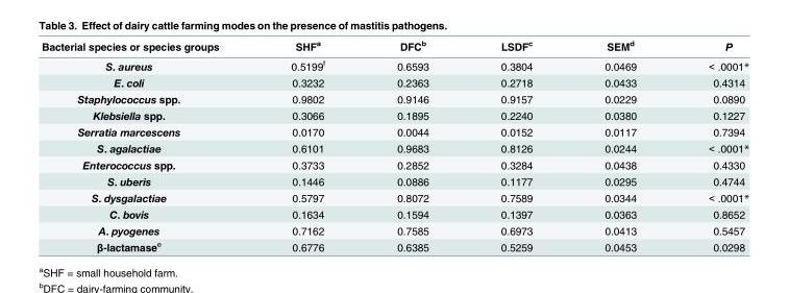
<table><thead><tr><td>Bacterial species or species groups</td><td>SHF<sup>a</sup></td><td>DFC<sup>b</sup></td><td>LSDF<sup>c</sup></td><td>SEM<sup>d</sup></td><td>P</td></tr></thead><tbody><tr><td>S. aureus</td><td>0.5199<sup>f</sup></td><td>0.6593</td><td>0.3804</td><td>0.0469</td><td>&lt; .0001*</td></tr><tr><td>E. coli</td><td>0.3232</td><td>0.2363</td><td>0.2718</td><td>0.0433</td><td>0.4314</td></tr><tr><td>Staphylococcus spp.</td><td>0.9802</td><td>0.9146</td><td>0.9157</td><td>0.0229</td><td>0.0890</td></tr><tr><td>Klebsiella spp.</td><td>0.3066</td><td>0.1895</td><td>0.2240</td><td>0.0380</td><td>0.1227</td></tr><tr><td>Serratia marcescens</td><td>0.0170</td><td>0.0044</td><td>0.0152</td><td>0.0117</td><td>0.7394</td></tr><tr><td>S. agalactiae</td><td>0.6101</td><td>0.9683</td><td>0.8126</td><td>0.0244</td><td>&lt; .0001*</td></tr><tr><td>Enterococcus spp.</td><td>0.3733</td><td>0.2852</td><td>0.3284</td><td>0.0438</td><td>0.4330</td></tr><tr><td>S. uberis</td><td>0.1446</td><td>0.0886</td><td>0.1177</td><td>0.0295</td><td>0.4744</td></tr><tr><td>S. dysgalactiae</td><td>0.5797</td><td>0.8072</td><td>0.7589</td><td>0.0344</td><td>&lt; .0001*</td></tr><tr><td>C. bovis</td><td>0.1634</td><td>0.1594</td><td>0.1397</td><td>0.0363</td><td>0.8652</td></tr><tr><td>A. pyogenes</td><td>0.7162</td><td>0.7585</td><td>0.6973</td><td>0.0413</td><td>0.5457</td></tr><tr><td>β-lactamase<sup>e</sup></td><td>0.6776</td><td>0.6385</td><td>0.5259</td><td>0.0453</td><td>0.0298</td></tr></tbody></table>